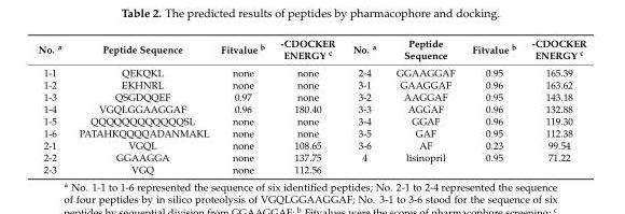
<table><thead><tr><td>No. <sup>a</sup></td><td>Peptide Sequence</td><td>Fitvalue <sup>b</sup></td><td>-CDOCKER ENERGY <sup>c</sup></td><td>No. <sup>a</sup></td><td>Peptide Sequence</td><td>Fitvalue <sup>b</sup></td><td>-CDOCKER ENERGY <sup>c</sup></td></tr></thead><tbody><tr><td>1-1</td><td>QEKQKL</td><td>none</td><td>none</td><td>2-4</td><td>GGAAGGAF</td><td>0.95</td><td>165.39</td></tr><tr><td>1-2</td><td>EKHNRL</td><td>none</td><td>none</td><td>3-1</td><td>GAAGGAF</td><td>0.96</td><td>163.62</td></tr><tr><td>1-3</td><td>QSGDQQEF</td><td>0.97</td><td>none</td><td>3-2</td><td>AAGGAF</td><td>0.95</td><td>143.18</td></tr><tr><td>1-4</td><td>VGQLGGAAGGAF</td><td>0.96</td><td>180.40</td><td>3-3</td><td>AGGAF</td><td>0.96</td><td>132.88</td></tr><tr><td>1-5</td><td>QQQQQQQQQQQQSL</td><td>none</td><td>none</td><td>3-4</td><td>GGAF</td><td>0.96</td><td>119.30</td></tr><tr><td>1-6</td><td>PATAHKQQQQADANMAKL</td><td>none</td><td>none</td><td>3-5</td><td>GAF</td><td>0.95</td><td>112.38</td></tr><tr><td>2-1</td><td>VGQL</td><td>none</td><td>108.65</td><td>3-6</td><td>AF</td><td>0.23</td><td>99.54</td></tr><tr><td>2-2</td><td>GGAAGGA</td><td>none</td><td>137.75</td><td>4</td><td>lisinopril</td><td>0.95</td><td>71.22</td></tr><tr><td>2-3</td><td>VGQ</td><td>none</td><td>112.56</td><td></td><td></td><td></td><td></td></tr></tbody></table>